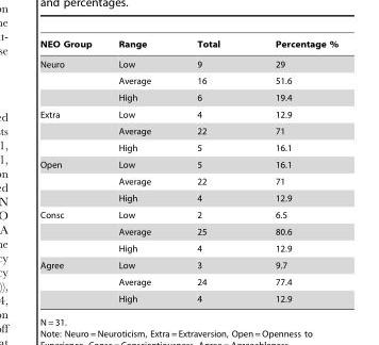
<table><thead><tr><td>NEO Group</td><td>Range</td><td>Total</td><td>Percentage %</td></tr></thead><tbody><tr><td rowspan="3">Neuro</td><td>Low</td><td>9</td><td>29</td></tr><tr><td>Average</td><td>16</td><td>51.6</td></tr><tr><td>High</td><td>6</td><td>19.4</td></tr><tr><td rowspan="3">Extra</td><td>Low</td><td>4</td><td>12.9</td></tr><tr><td>Average</td><td>22</td><td>71</td></tr><tr><td>High</td><td>5</td><td>16.1</td></tr><tr><td rowspan="3">Open</td><td>Low</td><td>5</td><td>16.1</td></tr><tr><td>Average</td><td>22</td><td>71</td></tr><tr><td>High</td><td>4</td><td>12.9</td></tr><tr><td rowspan="3">Consc</td><td>Low</td><td>2</td><td>6.5</td></tr><tr><td>Average</td><td>25</td><td>80.6</td></tr><tr><td>High</td><td>4</td><td>12.9</td></tr><tr><td rowspan="3">Agree</td><td>Low</td><td>3</td><td>9.7</td></tr><tr><td>Average</td><td>24</td><td>77.4</td></tr><tr><td>High</td><td>4</td><td>12.9</td></tr></tbody></table>